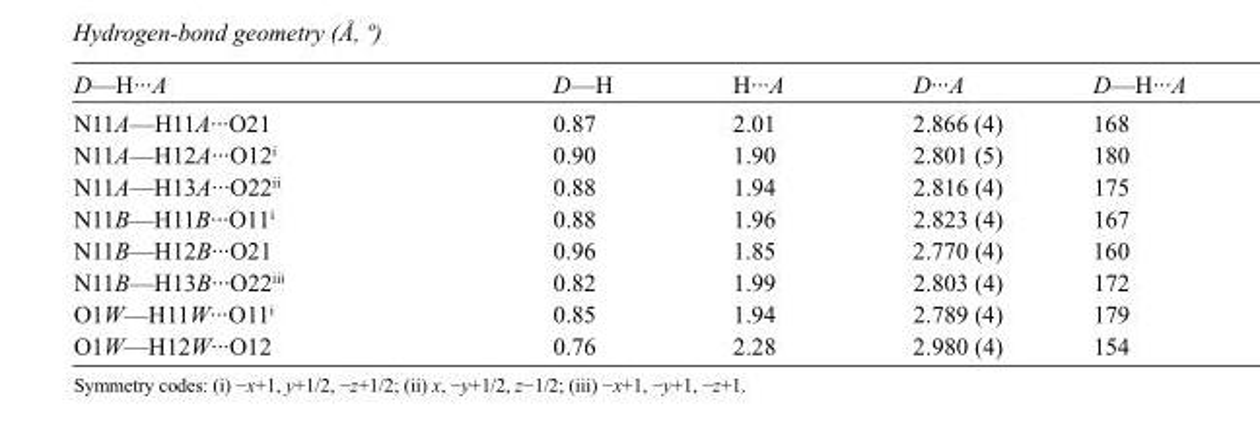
<table><tbody><tr><td>D—H···A</td><td>D—H</td><td>H···A</td><td>D···A</td><td>D—H···A</td></tr><tr><td>N11A—H11A···O21</td><td>0.87</td><td>2.01</td><td>2.866 (4)</td><td>168</td></tr><tr><td>N11A—H12A···O12<sup>i</sup></td><td>0.90</td><td>1.90</td><td>2.801 (5)</td><td>180</td></tr><tr><td>N11A—H13A···O22<sup>ii</sup></td><td>0.88</td><td>1.94</td><td>2.816 (4)</td><td>175</td></tr><tr><td>N11B—H11B···O11<sup>i</sup></td><td>0.88</td><td>1.96</td><td>2.823 (4)</td><td>167</td></tr><tr><td>N11B—H12B···O21</td><td>0.96</td><td>1.85</td><td>2.770 (4)</td><td>160</td></tr><tr><td>N11B—H13B···O22<sup>iii</sup></td><td>0.82</td><td>1.99</td><td>2.803 (4)</td><td>172</td></tr><tr><td>O1W—H11W···O11<sup>i</sup></td><td>0.85</td><td>1.94</td><td>2.789 (4)</td><td>179</td></tr><tr><td>O1W—H12W···O12</td><td>0.76</td><td>2.28</td><td>2.980 (4)</td><td>154</td></tr></tbody></table>